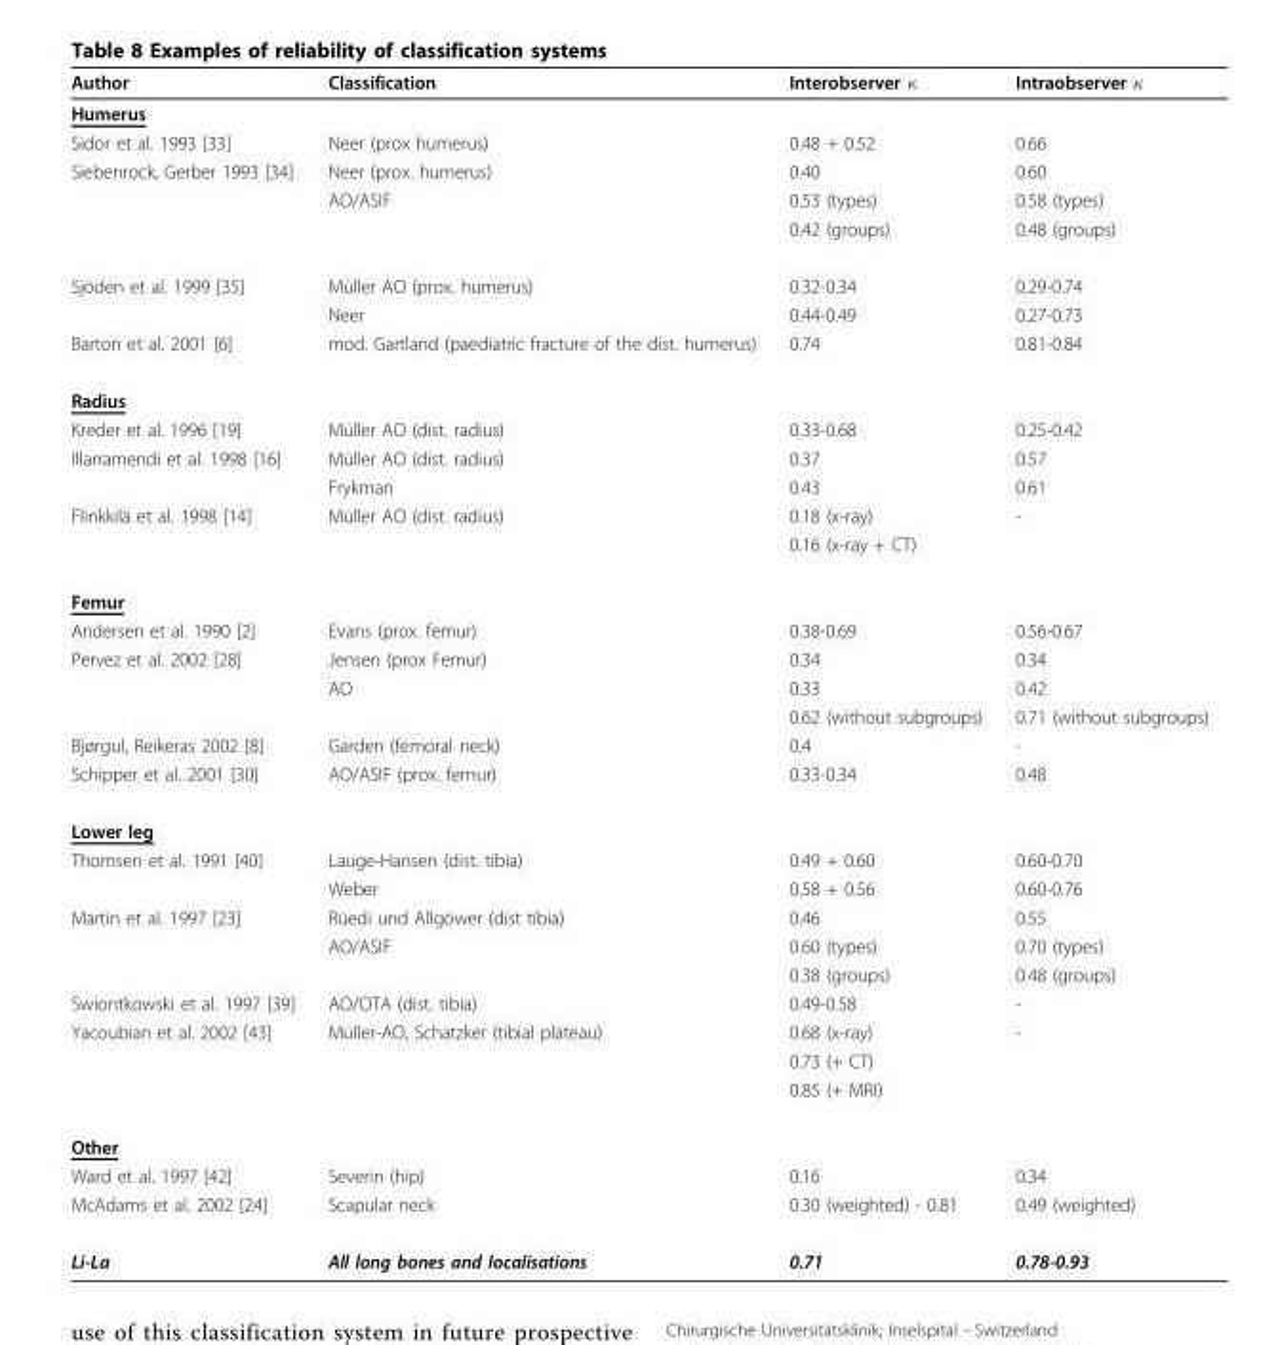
<table><thead><tr><td>Author</td><td>Classification</td><td>Interobserver κ</td><td>Intraobserver κ</td></tr></thead><tbody><tr><td colspan="4">Humerus</td></tr><tr><td>Sidor et al. 1993 [33]</td><td>Neer (prox humerus)</td><td>0.48 + 0.52</td><td>0.66</td></tr><tr><td rowspan="3">Siebenrock, Gerber 1993 [34]</td><td>Neer (prox. humerus)</td><td>0.40</td><td>0.60</td></tr><tr><td>AO/ASIF</td><td>0.53 (types)</td><td>0.58 (types)</td></tr><tr><td></td><td>0.42 (groups)</td><td>0.48 (groups)</td></tr><tr><td rowspan="2">Sjöden et al. 1999 [35]</td><td>Müller AO (prox. humerus)</td><td>0.32-0.34</td><td>0.29-0.74</td></tr><tr><td>Neer</td><td>0.44-0.49</td><td>0.27-0.73</td></tr><tr><td>Barton et al. 2001 [6]</td><td>mod. Gartland (paediatric fracture of the dist. humerus)</td><td>0.74</td><td>0.81-0.84</td></tr><tr><td colspan="4">Radius</td></tr><tr><td>Kreder et al. 1996 [19]</td><td>Müller AO (dist. radius)</td><td>0.33-0.68</td><td>0.25-0.42</td></tr><tr><td rowspan="2">Illarramendi et al. 1998 [16]</td><td>Müller AO (dist. radius)</td><td>0.37</td><td>0.57</td></tr><tr><td>Frykman</td><td>0.43</td><td>0.61</td></tr><tr><td rowspan="2">Flinkkilä et al. 1998 [14]</td><td>Müller AO (dist. radius)</td><td>0.18 (x-ray)</td><td>-</td></tr><tr><td></td><td>0.16 (x-ray + CT)</td><td></td></tr><tr><td colspan="4">Femur</td></tr><tr><td>Andersen et al. 1990 [2]</td><td>Evans (prox. femur)</td><td>0.38-0.69</td><td>0.56-0.67</td></tr><tr><td rowspan="3">Pervez et al. 2002 [28]</td><td>Jensen (prox Femur)</td><td>0.34</td><td>0.34</td></tr><tr><td>AO</td><td>0.33</td><td>0.42</td></tr><tr><td></td><td>0.62 (without subgroups)</td><td>0.71 (without subgroups)</td></tr><tr><td>Bjørgul, Reikeras 2002 [8]</td><td>Garden (femoral neck)</td><td>0.4</td><td>-</td></tr><tr><td>Schipper et al. 2001 [30]</td><td>AO/ASIF (prox. femur)</td><td>0.33-0.34</td><td>0.48</td></tr><tr><td colspan="4">Lower leg</td></tr><tr><td rowspan="2">Thomsen et al. 1991 [40]</td><td>Lauge-Hansen (dist. tibia)</td><td>0.49 + 0.60</td><td>0.60-0.70</td></tr><tr><td>Weber</td><td>0.58 + 0.56</td><td>0.60-0.76</td></tr><tr><td rowspan="3">Martin et al. 1997 [23]</td><td>Rüedi und Allgöwer (dist tibia)</td><td>0.46</td><td>0.55</td></tr><tr><td>AO/ASIF</td><td>0.60 (types)</td><td>0.70 (types)</td></tr><tr><td></td><td>0.38 (groups)</td><td>0.48 (groups)</td></tr><tr><td>Swiontkowski et al. 1997 [39]</td><td>AO/OTA (dist. tibia)</td><td>0.49-0.58</td><td>-</td></tr><tr><td rowspan="3">Yacoubian et al. 2002 [43]</td><td>Müller-AO, Schatzker (tibial plateau)</td><td>0.68 (x-ray)</td><td>-</td></tr><tr><td></td><td>0.73 (+ CT)</td><td></td></tr><tr><td></td><td>0.85 (+ MRI)</td><td></td></tr><tr><td colspan="4">Other</td></tr><tr><td>Ward et al. 1997 [42]</td><td>Severin (hip)</td><td>0.16</td><td>0.34</td></tr><tr><td>McAdams et al. 2002 [24]</td><td>Scapular neck</td><td>0.30 (weighted) - 0.81</td><td>0.49 (weighted)</td></tr><tr><td>Li-La</td><td>All long bones and localisations</td><td>0.71</td><td>0.78-0.93</td></tr></tbody></table>